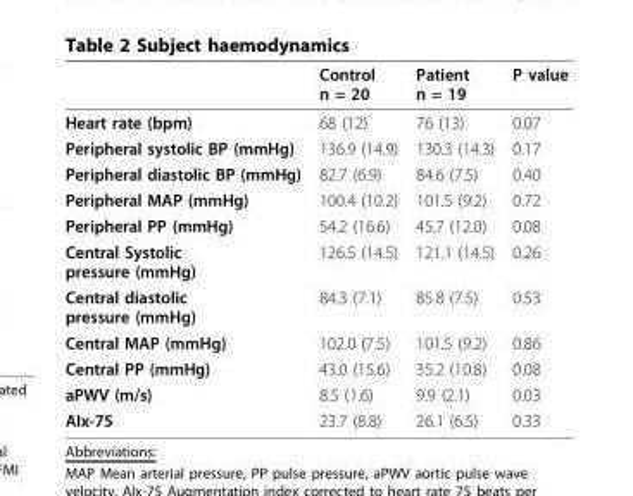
<table><thead><tr><td></td><td>Control n = 20</td><td>Patient n = 19</td><td>P value</td></tr></thead><tbody><tr><td>Heart rate (bpm)</td><td>68 (12)</td><td>76 (13)</td><td>0.07</td></tr><tr><td>Peripheral systolic BP (mmHg)</td><td>136.9 (14.9)</td><td>130.3 (14.3)</td><td>0.17</td></tr><tr><td>Peripheral diastolic BP (mmHg)</td><td>82.7 (6.9)</td><td>84.6 (7.5)</td><td>0.40</td></tr><tr><td>Peripheral MAP (mmHg)</td><td>100.4 (10.2)</td><td>101.5 (9.2)</td><td>0.72</td></tr><tr><td>Peripheral PP (mmHg)</td><td>54.2 (16.6)</td><td>45.7 (12.0)</td><td>0.08</td></tr><tr><td>Central Systolic pressure (mmHg)</td><td>126.5 (14.5)</td><td>121.1 (14.5)</td><td>0.26</td></tr><tr><td>Central diastolic pressure (mmHg)</td><td>84.3 (7.1)</td><td>85.8 (7.5)</td><td>0.53</td></tr><tr><td>Central MAP (mmHg)</td><td>102.0 (7.5)</td><td>101.5 (9.2)</td><td>0.86</td></tr><tr><td>Central PP (mmHg)</td><td>43.0 (15.6)</td><td>35.2 (10.8)</td><td>0.08</td></tr><tr><td>aPWV (m/s)</td><td>8.5 (1.6)</td><td>9.9 (2.1)</td><td>0.03</td></tr><tr><td>AIx-75</td><td>23.7 (8.8)</td><td>26.1 (6.5)</td><td>0.33</td></tr></tbody></table>